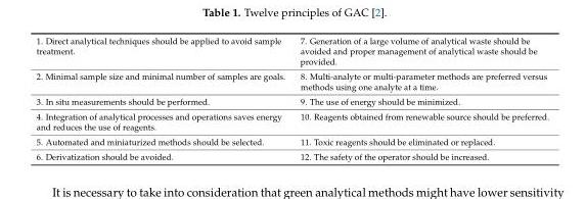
<table><tbody><tr><td>1. Direct analytical techniques should be applied to avoid sample treatment.</td><td>7. Generation of a large volume of analytical waste should be avoided and proper management of analytical waste should be provided.</td></tr><tr><td>2. Minimal sample size and minimal number of samples are goals.</td><td>8. Multi-analyte or multi-parameter methods are preferred versus methods using one analyte at a time.</td></tr><tr><td>3. In situ measurements should be performed.</td><td>9. The use of energy should be minimized.</td></tr><tr><td>4. Integration of analytical processes and operations saves energy and reduces the use of reagents.</td><td>10. Reagents obtained from renewable source should be preferred.</td></tr><tr><td>5. Automated and miniaturized methods should be selected.</td><td>11. Toxic reagents should be eliminated or replaced.</td></tr><tr><td>6. Derivatization should be avoided.</td><td>12. The safety of the operator should be increased.</td></tr></tbody></table>